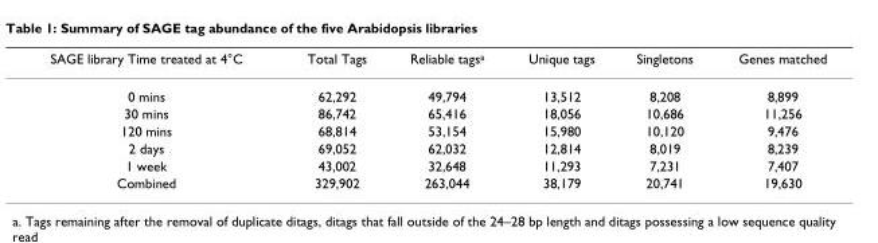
<table><thead><tr><td>SAGE library Time treated at 4°C</td><td>Total Tags</td><td>Reliable tags<sup>a</sup></td><td>Unique tags</td><td>Singletons</td><td>Genes matched</td></tr></thead><tbody><tr><td>0 mins</td><td>62,292</td><td>49,794</td><td>13,512</td><td>8,208</td><td>8,899</td></tr><tr><td>30 mins</td><td>86,742</td><td>65,416</td><td>18,056</td><td>10,686</td><td>11,256</td></tr><tr><td>120 mins</td><td>68,814</td><td>53,154</td><td>15,980</td><td>10,120</td><td>9,476</td></tr><tr><td>2 days</td><td>69,052</td><td>62,032</td><td>12,814</td><td>8,019</td><td>8,239</td></tr><tr><td>1 week</td><td>43,002</td><td>32,648</td><td>11,293</td><td>7,231</td><td>7,407</td></tr><tr><td>Combined</td><td>329,902</td><td>263,044</td><td>38,179</td><td>20,741</td><td>19,630</td></tr></tbody></table>